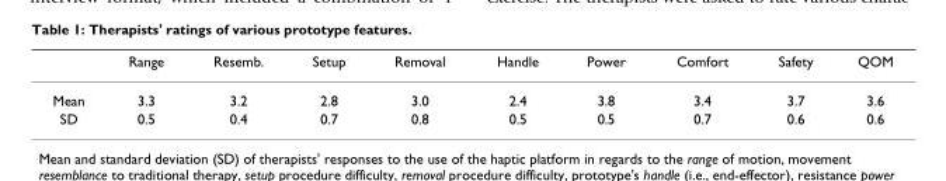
<table><thead><tr><td></td><td>Range</td><td>Resemb.</td><td>Setup</td><td>Removal</td><td>Handle</td><td>Power</td><td>Comfort</td><td>Safety</td><td>QOM</td></tr></thead><tbody><tr><td>Mean</td><td>3.3</td><td>3.2</td><td>2.8</td><td>3.0</td><td>2.4</td><td>3.8</td><td>3.4</td><td>3.7</td><td>3.6</td></tr><tr><td>SD</td><td>0.5</td><td>0.4</td><td>0.7</td><td>0.8</td><td>0.5</td><td>0.5</td><td>0.7</td><td>0.6</td><td>0.6</td></tr></tbody></table>